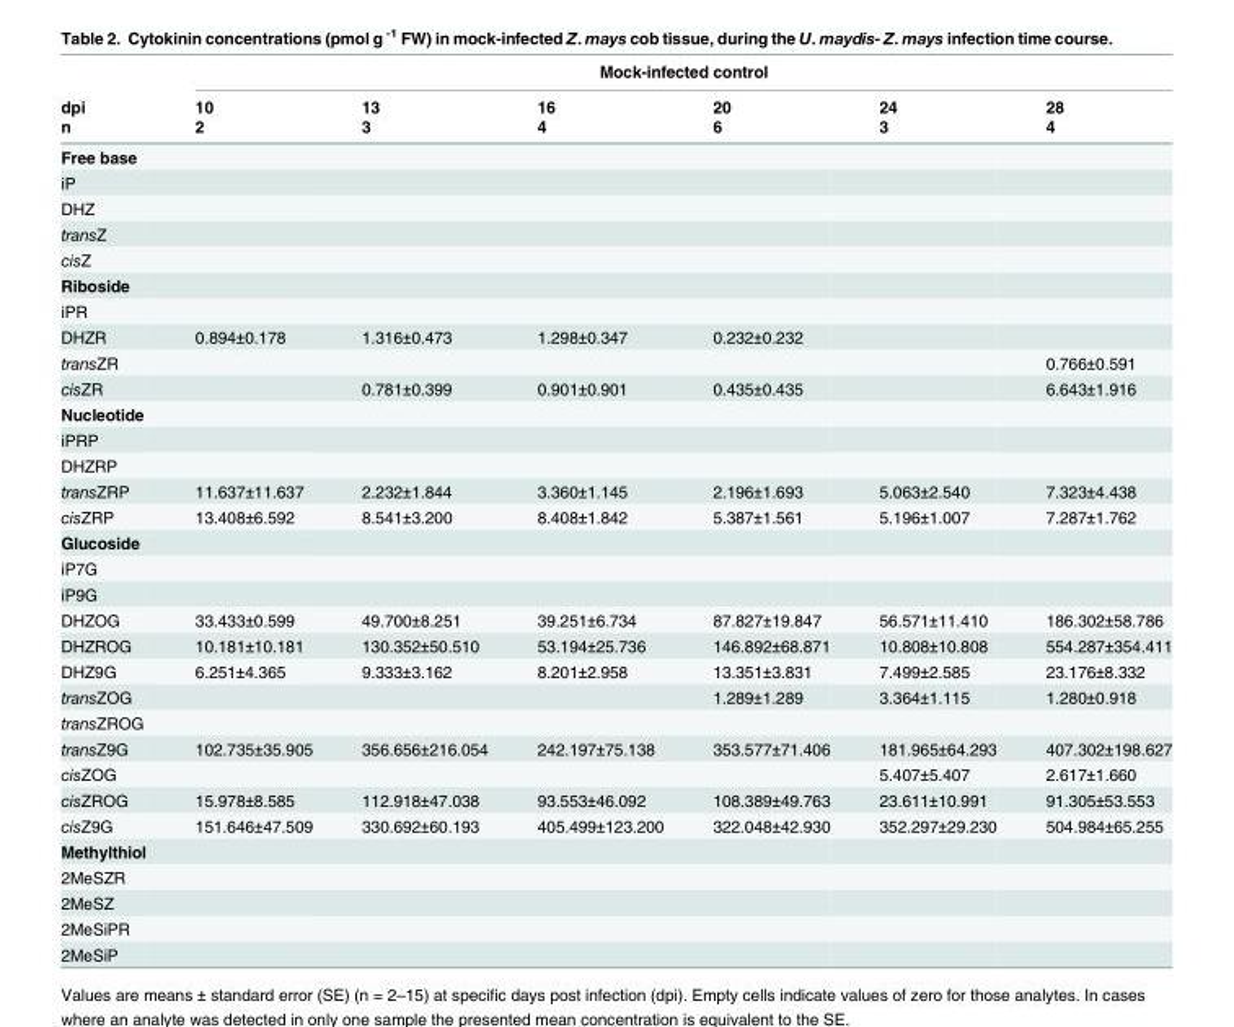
<table><thead><tr><td rowspan="3">dpi n</td><td colspan="6">Mock-infected control</td></tr><tr><td rowspan="2">10 2</td><td rowspan="2">13 3</td><td rowspan="2">16 4</td><td rowspan="2">20 6</td><td rowspan="2">24 3</td><td rowspan="2">28 4</td></tr><tr></tr></thead><tbody><tr><td colspan="7">Free base</td></tr><tr><td colspan="7">iP</td></tr><tr><td colspan="7">DHZ</td></tr><tr><td colspan="7">transZ</td></tr><tr><td colspan="7">cisZ</td></tr><tr><td colspan="7">Riboside</td></tr><tr><td colspan="7">iPR</td></tr><tr><td>DHZR</td><td>0.894±0.178</td><td>1.316±0.473</td><td>1.298±0.347</td><td>0.232±0.232</td><td></td><td></td></tr><tr><td>transZR</td><td></td><td></td><td></td><td></td><td></td><td>0.766±0.591</td></tr><tr><td>cisZR</td><td></td><td>0.781±0.399</td><td>0.901±0.901</td><td>0.435±0.435</td><td></td><td>6.643±1.916</td></tr><tr><td colspan="7">Nucleotide</td></tr><tr><td colspan="7">iPRP</td></tr><tr><td colspan="7">DHZRP</td></tr><tr><td>transZRP</td><td>11.637±11.637</td><td>2.232±1.844</td><td>3.360±1.145</td><td>2.196±1.693</td><td>5.063±2.540</td><td>7.323±4.438</td></tr><tr><td>cisZRP</td><td>13.408±6.592</td><td>8.541±3.200</td><td>8.408±1.842</td><td>5.387±1.561</td><td>5.196±1.007</td><td>7.287±1.762</td></tr><tr><td colspan="7">Glucoside</td></tr><tr><td colspan="7">iP7G</td></tr><tr><td colspan="7">iP9G</td></tr><tr><td>DHZOG</td><td>33.433±0.599</td><td>49.700±8.251</td><td>39.251±6.734</td><td>87.827±19.847</td><td>56.571±11.410</td><td>186.302±58.786</td></tr><tr><td>DHZROG</td><td>10.181±10.181</td><td>130.352±50.510</td><td>53.194±25.736</td><td>146.892±68.871</td><td>10.808±10.808</td><td>554.287±354.411</td></tr><tr><td>DHZ9G</td><td>6.251±4.365</td><td>9.333±3.162</td><td>8.201±2.958</td><td>13.351±3.831</td><td>7.499±2.585</td><td>23.176±8.332</td></tr><tr><td>transZOG</td><td></td><td></td><td></td><td>1.289±1.289</td><td>3.364±1.115</td><td>1.280±0.918</td></tr><tr><td colspan="7">transZROG</td></tr><tr><td>transZ9G</td><td>102.735±35.905</td><td>356.656±216.054</td><td>242.197±75.138</td><td>353.577±71.406</td><td>181.965±64.293</td><td>407.302±198.627</td></tr><tr><td>cisZOG</td><td></td><td></td><td></td><td></td><td>5.407±5.407</td><td>2.617±1.660</td></tr><tr><td>cisZROG</td><td>15.978±8.585</td><td>112.918±47.038</td><td>93.553±46.092</td><td>108.389±49.763</td><td>23.611±10.991</td><td>91.305±53.553</td></tr><tr><td>cisZ9G</td><td>151.646±47.509</td><td>330.692±60.193</td><td>405.499±123.200</td><td>322.048±42.930</td><td>352.297±29.230</td><td>504.984±65.255</td></tr><tr><td colspan="7">Methylthiol</td></tr><tr><td colspan="7">2MeSZR</td></tr><tr><td colspan="7">2MeSZ</td></tr><tr><td colspan="7">2MeSiPR</td></tr><tr><td>2MeSiP</td><td></td><td></td><td></td><td></td><td></td><td></td></tr></tbody></table>